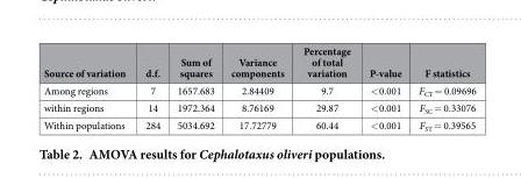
<table><thead><tr><td>Source of variation</td><td>d.f.</td><td>Sum of squares</td><td>Variance components</td><td>Percentage of total variation</td><td>P-value</td><td>F statistics</td></tr></thead><tbody><tr><td>Among regions</td><td>7</td><td>1657.683</td><td>2.84409</td><td>9.7</td><td>&lt; 0.001</td><td>F<sub>CT</sub> = 0.09696</td></tr><tr><td>within regions</td><td>14</td><td>1972.364</td><td>8.76169</td><td>29.87</td><td>&lt; 0.001</td><td>F<sub>SC</sub> = 0.33076</td></tr><tr><td>Within populations</td><td>284</td><td>5034.692</td><td>17.72779</td><td>60.44</td><td>&lt; 0.001</td><td>F<sub>ST</sub> = 0.39565</td></tr></tbody></table>